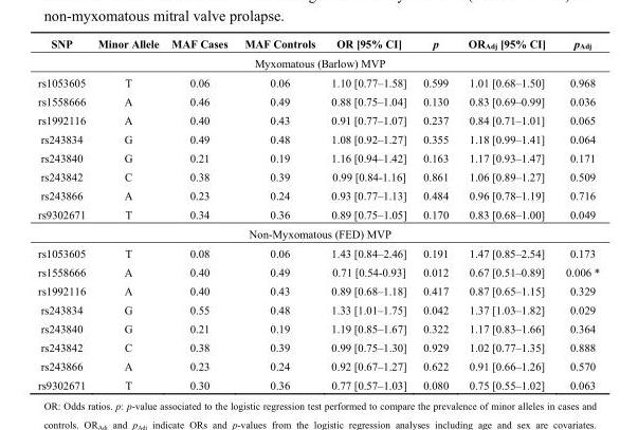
<table><thead><tr><td>SNP</td><td>Minor Allele</td><td>MAF Cases</td><td>MAF Controls</td><td>OR [95% CI]</td><td>p</td><td>OR<sub>Adj</sub> [95% CI]</td><td>p<sub>Adj</sub></td></tr></thead><tbody><tr><td colspan="8">Myxomatous (Barlow) MVP</td></tr><tr><td>rs1053605</td><td>T</td><td>0.06</td><td>0.06</td><td>1.10 [0.77–1.58]</td><td>0.599</td><td>1.01 [0.68–1.50]</td><td>0.968</td></tr><tr><td>rs1558666</td><td>A</td><td>0.46</td><td>0.49</td><td>0.88 [0.75–1.04]</td><td>0.130</td><td>0.83 [0.69–0.99]</td><td>0.036</td></tr><tr><td>rs1992116</td><td>A</td><td>0.40</td><td>0.43</td><td>0.91 [0.77–1.07]</td><td>0.237</td><td>0.84 [0.71–1.01]</td><td>0.065</td></tr><tr><td>rs243834</td><td>G</td><td>0.49</td><td>0.48</td><td>1.08 [0.92–1.27]</td><td>0.355</td><td>1.18 [0.99–1.41]</td><td>0.064</td></tr><tr><td>rs243840</td><td>G</td><td>0.21</td><td>0.19</td><td>1.16 [0.94–1.42]</td><td>0.163</td><td>1.17 [0.93–1.47]</td><td>0.171</td></tr><tr><td>rs243842</td><td>C</td><td>0.38</td><td>0.39</td><td>0.99 [0.84-1.16]</td><td>0.861</td><td>1.06 [0.89–1.27]</td><td>0.509</td></tr><tr><td>rs243866</td><td>A</td><td>0.23</td><td>0.24</td><td>0.93 [0.77–1.13]</td><td>0.484</td><td>0.96 [0.78–1.19]</td><td>0.716</td></tr><tr><td>rs9302671</td><td>T</td><td>0.34</td><td>0.36</td><td>0.89 [0.75–1.05]</td><td>0.170</td><td>0.83 [0.68–1.00]</td><td>0.049</td></tr><tr><td colspan="8">Non-Myxomatous (FED) MVP</td></tr><tr><td>rs1053605</td><td>T</td><td>0.08</td><td>0.06</td><td>1.43 [0.84–2.46]</td><td>0.191</td><td>1.47 [0.85–2.54]</td><td>0.173</td></tr><tr><td>rs1558666</td><td>A</td><td>0.40</td><td>0.49</td><td>0.71 [0.54-0.93]</td><td>0.012</td><td>0.67 [0.51–0.89]</td><td>0.006 *</td></tr><tr><td>rs1992116</td><td>A</td><td>0.40</td><td>0.43</td><td>0.89 [0.68–1.18]</td><td>0.417</td><td>0.87 [0.65–1.15]</td><td>0.329</td></tr><tr><td>rs243834</td><td>G</td><td>0.55</td><td>0.48</td><td>1.33 [1.01–1.75]</td><td>0.042</td><td>1.37 [1.03–1.82]</td><td>0.029</td></tr><tr><td>rs243840</td><td>G</td><td>0.21</td><td>0.19</td><td>1.19 [0.85–1.67]</td><td>0.322</td><td>1.17 [0.83–1.66]</td><td>0.364</td></tr><tr><td>rs243842</td><td>C</td><td>0.38</td><td>0.39</td><td>0.99 [0.75–1.30]</td><td>0.929</td><td>1.02 [0.77–1.35]</td><td>0.888</td></tr><tr><td>rs243866</td><td>A</td><td>0.23</td><td>0.24</td><td>0.92 [0.67–1.27]</td><td>0.622</td><td>0.91 [0.66–1.26]</td><td>0.570</td></tr><tr><td>rs9302671</td><td>T</td><td>0.30</td><td>0.36</td><td>0.77 [0.57–1.03]</td><td>0.080</td><td>0.75 [0.55–1.02]</td><td>0.063</td></tr></tbody></table>